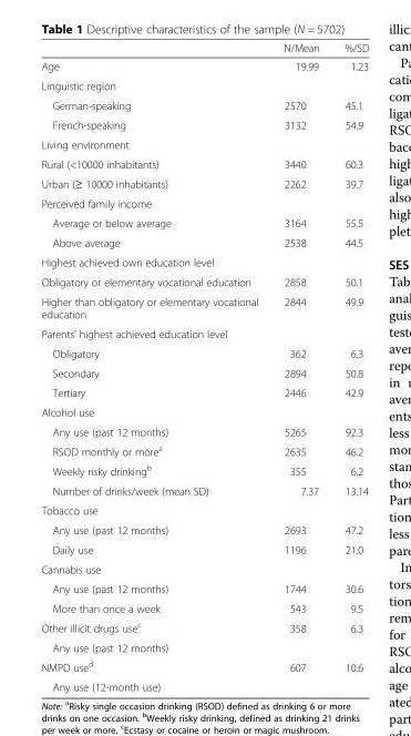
<table><thead><tr><td></td><td>N/Mean</td><td>%/SD</td></tr></thead><tbody><tr><td>Age</td><td>19.99</td><td>1.23</td></tr><tr><td colspan="3">Linguistic region</td></tr><tr><td>German-speaking</td><td>2570</td><td>45.1</td></tr><tr><td>French-speaking</td><td>3132</td><td>54.9</td></tr><tr><td colspan="3">Living environment</td></tr><tr><td>Rural (&lt;10000 inhabitants)</td><td>3440</td><td>60.3</td></tr><tr><td>Urban (≥ 10000 inhabitants)</td><td>2262</td><td>39.7</td></tr><tr><td colspan="3">Perceived family income</td></tr><tr><td>Average or below average</td><td>3164</td><td>55.5</td></tr><tr><td>Above average</td><td>2538</td><td>44.5</td></tr><tr><td colspan="3">Highest achieved own education level</td></tr><tr><td>Obligatory or elementary vocational education</td><td>2858</td><td>50.1</td></tr><tr><td>Higher than obligatory or elementary vocational education</td><td>2844</td><td>49.9</td></tr><tr><td colspan="3">Parents’ highest achieved education level</td></tr><tr><td>Obligatory</td><td>362</td><td>6.3</td></tr><tr><td>Secondary</td><td>2894</td><td>50.8</td></tr><tr><td>Tertiary</td><td>2446</td><td>42.9</td></tr><tr><td colspan="3">Alcohol use</td></tr><tr><td>Any use (past 12 months)</td><td>5265</td><td>92.3</td></tr><tr><td>RSOD monthly or more<sup>a</sup></td><td>2635</td><td>46.2</td></tr><tr><td>Weekly risky drinking<sup>b</sup></td><td>355</td><td>6.2</td></tr><tr><td>Number of drinks/week (mean SD)</td><td>7.37</td><td>13.14</td></tr><tr><td colspan="3">Tobacco use</td></tr><tr><td>Any use (past 12 months)</td><td>2693</td><td>47.2</td></tr><tr><td>Daily use</td><td>1196</td><td>21.0</td></tr><tr><td colspan="3">Cannabis use</td></tr><tr><td>Any use (past 12 months)</td><td>1744</td><td>30.6</td></tr><tr><td>More than once a week</td><td>543</td><td>9.5</td></tr><tr><td>Other illicit drugs use<sup>c</sup></td><td>358</td><td>6.3</td></tr><tr><td colspan="3">Any use (past 12 months)</td></tr><tr><td>NMPD use<sup>d</sup></td><td>607</td><td>10.6</td></tr><tr><td>Any use (12-month use)</td><td></td><td></td></tr></tbody></table>